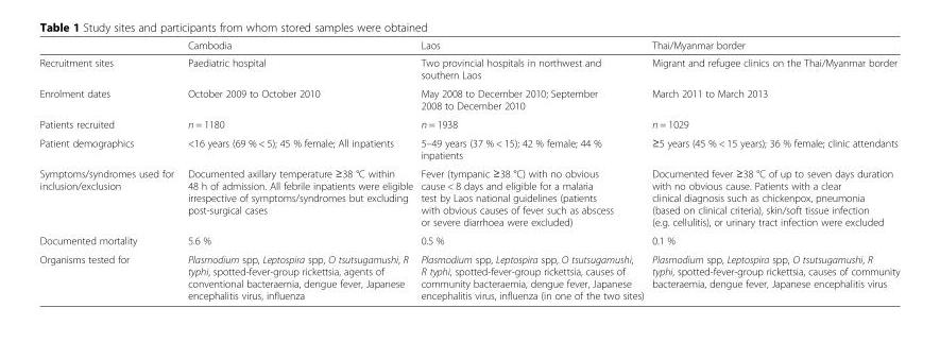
<table><thead><tr><td></td><td>Cambodia</td><td>Laos</td><td>Thai/Myanmar border</td></tr></thead><tbody><tr><td>Recruitment sites</td><td>Paediatric hospital</td><td>Two provincial hospitals in northwest and southern Laos</td><td>Migrant and refugee clinics on the Thai/Myanmar border</td></tr><tr><td>Enrolment dates</td><td>October 2009 to October 2010</td><td>May 2008 to December 2010; September 2008 to December 2010</td><td>March 2011 to March 2013</td></tr><tr><td>Patients recruited</td><td>n = 1180</td><td>n = 1938</td><td>n = 1029</td></tr><tr><td>Patient demographics</td><td>&lt;16 years (69 % &lt; 5); 45 % female; All inpatients</td><td>5–49 years (37 % &lt; 15); 42 % female; 44 % inpatients</td><td>≥5 years (45 % &lt; 15 years); 36 % female; clinic attendants</td></tr><tr><td>Symptoms/syndromes used for inclusion/exclusion</td><td>Documented axillary temperature ≥38 °C within 48 h of admission. All febrile inpatients were eligible irrespective of symptoms/syndromes but excluding post-surgical cases</td><td>Fever (tympanic ≥38 °C) with no obvious cause &lt; 8 days and eligible for a malaria test by Laos national guidelines (patients with obvious causes of fever such as abscess or severe diarrhoea were excluded)</td><td>Documented fever ≥38 °C of up to seven days duration with no obvious cause. Patients with a clear clinical diagnosis such as chickenpox, pneumonia (based on clinical criteria), skin/soft tissue infection (e.g. cellulitis), or urinary tract infection were excluded</td></tr><tr><td>Documented mortality</td><td>5.6 %</td><td>0.5 %</td><td>0.1 %</td></tr><tr><td>Organisms tested for</td><td>Plasmodium spp, Leptospira spp, O tsutsugamushi, R typhi, spotted-fever-group rickettsia, agents of conventional bacteraemia, dengue fever, Japanese encephalitis virus, influenza</td><td>Plasmodium spp, Leptospira spp, O tsutsugamushi, R typhi, spotted-fever-group rickettsia, causes of community bacteraemia, dengue fever, Japanese encephalitis virus, influenza (in one of the two sites)</td><td>Plasmodium spp, Leptospira spp, O tsutsugamushi, R typhi, spotted-fever-group rickettsia, causes of community bacteraemia, dengue fever, Japanese encephalitis virus</td></tr></tbody></table>